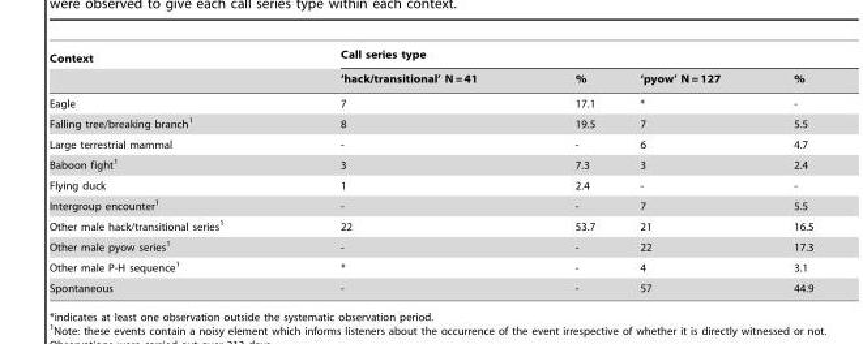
<table><thead><tr><td rowspan="2">Context</td><td colspan="4">Call series type</td></tr><tr><td>‘hack/transitional’ N = 41</td><td>%</td><td>‘pyow’ N = 127</td><td>%</td></tr></thead><tbody><tr><td>Eagle</td><td>7</td><td>17.1</td><td>*</td><td>-</td></tr><tr><td>Falling tree/breaking branch<sup>1</sup></td><td>8</td><td>19.5</td><td>7</td><td>5.5</td></tr><tr><td>Large terrestrial mammal</td><td>-</td><td>-</td><td>6</td><td>4.7</td></tr><tr><td>Baboon fight<sup>1</sup></td><td>3</td><td>7.3</td><td>3</td><td>2.4</td></tr><tr><td>Flying duck</td><td>1</td><td>2.4</td><td>-</td><td>-</td></tr><tr><td>Intergroup encounter<sup>1</sup></td><td>-</td><td>-</td><td>7</td><td>5.5</td></tr><tr><td>Other male hack/transitional series<sup>1</sup></td><td>22</td><td>53.7</td><td>21</td><td>16.5</td></tr><tr><td>Other male pyow series<sup>1</sup></td><td>-</td><td>-</td><td>22</td><td>17.3</td></tr><tr><td>Other male P-H sequence<sup>1</sup></td><td>*</td><td>-</td><td>4</td><td>3.1</td></tr><tr><td>Spontaneous</td><td>-</td><td>-</td><td>57</td><td>44.9</td></tr></tbody></table>